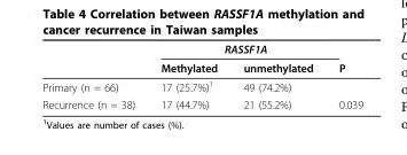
<table><thead><tr><td rowspan="2"></td><td colspan="2">RASSF1A</td><td rowspan="2">P</td></tr><tr><td>Methylated</td><td>unmethylated</td></tr></thead><tbody><tr><td>Primary (n = 66)</td><td>17 (25.7%)<sup>1</sup></td><td>49 (74.2%)</td><td></td></tr><tr><td>Recurrence (n = 38)</td><td>17 (44.7%)</td><td>21 (55.2%)</td><td>0.039</td></tr></tbody></table>